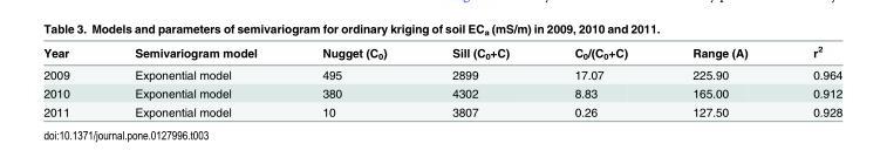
<table><thead><tr><td>Year</td><td>Semivariogram model</td><td>Nugget (C<sub>0</sub>)</td><td>Sill (C<sub>0</sub>+C)</td><td>C<sub>0</sub>/(C<sub>0</sub>+C)</td><td>Range (A)</td><td>r<sup>2</sup></td></tr></thead><tbody><tr><td>2009</td><td>Exponential model</td><td>495</td><td>2899</td><td>17.07</td><td>225.90</td><td>0.964</td></tr><tr><td>2010</td><td>Exponential model</td><td>380</td><td>4302</td><td>8.83</td><td>165.00</td><td>0.912</td></tr><tr><td>2011</td><td>Exponential model</td><td>10</td><td>3807</td><td>0.26</td><td>127.50</td><td>0.928</td></tr></tbody></table>